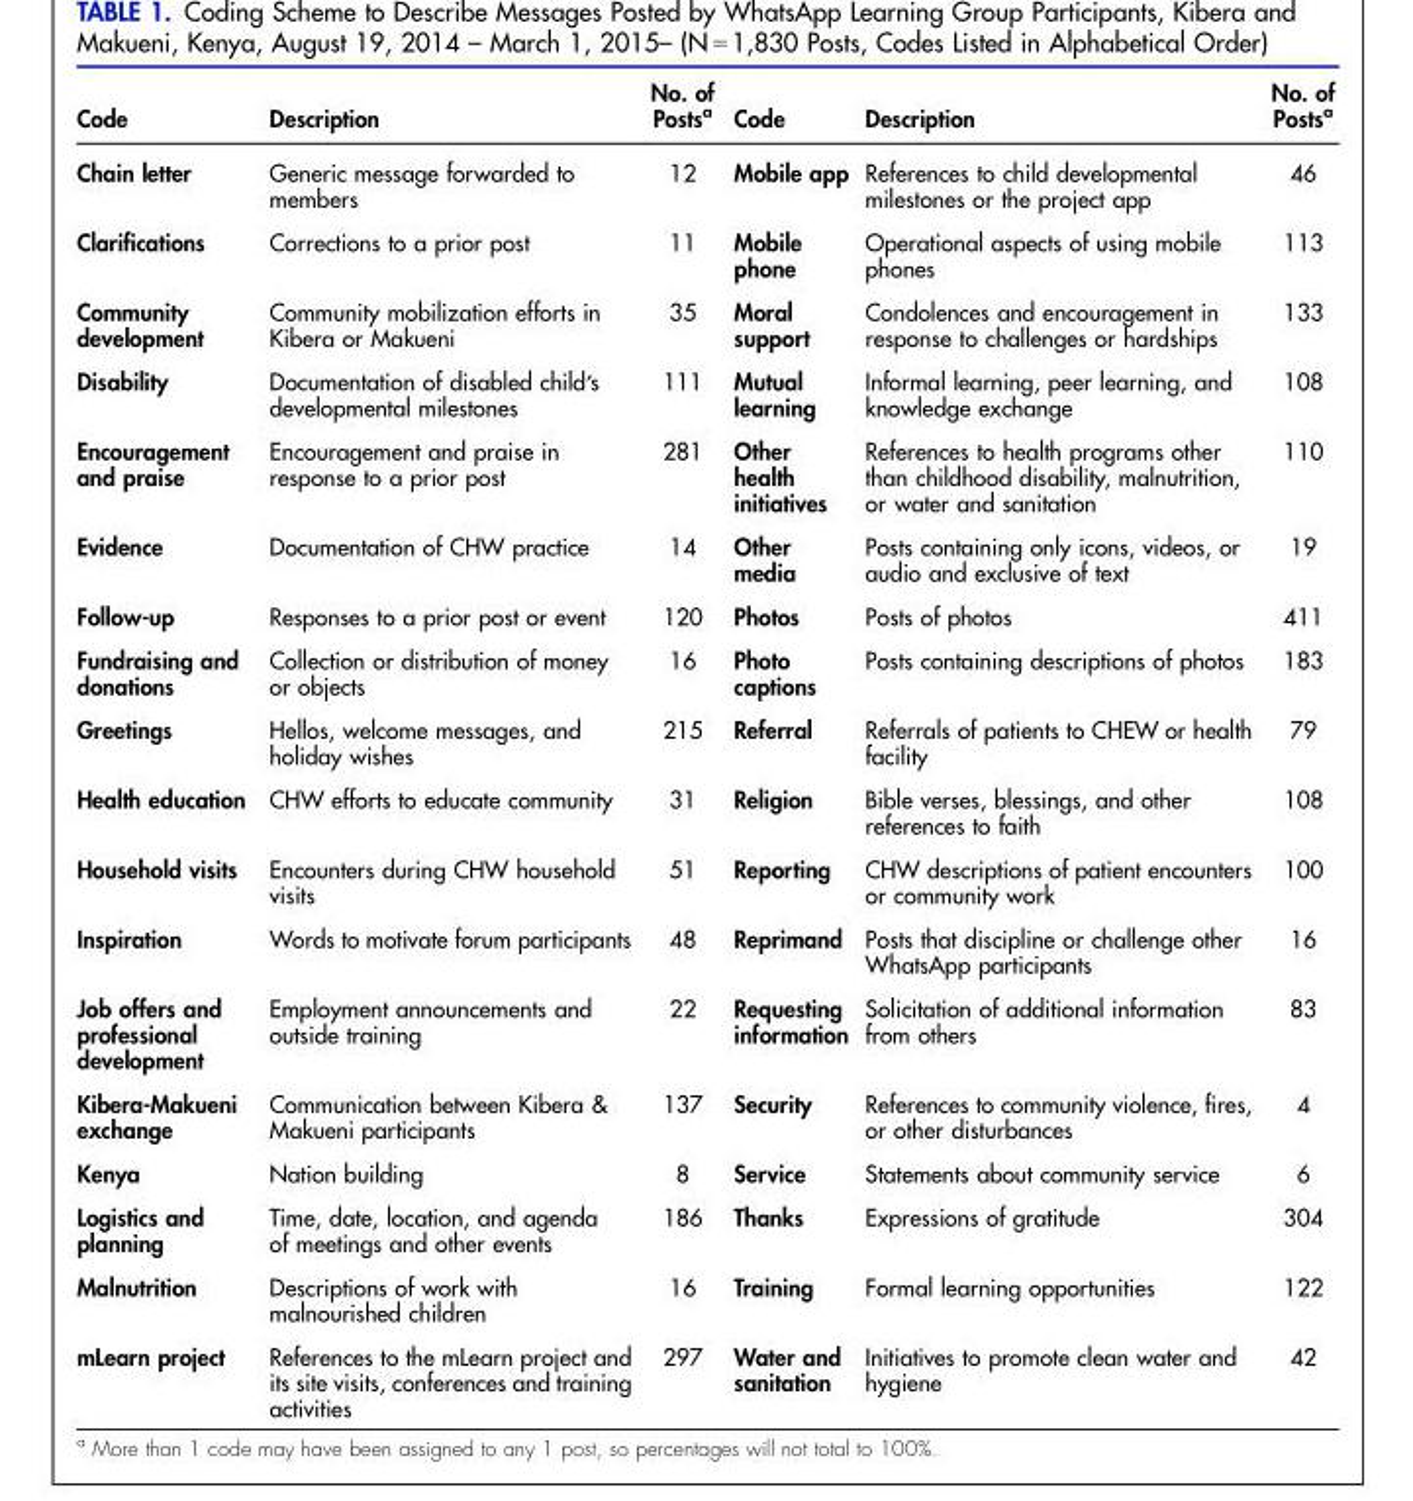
<table><thead><tr><td>Code</td><td>Description</td><td>No. of Posts<sup>a</sup></td><td>Code</td><td>Description</td><td>No. of Posts<sup>a</sup></td></tr></thead><tbody><tr><td>Chain letter</td><td>Generic message forwarded to members</td><td>12</td><td>Mobile app</td><td>References to child developmental milestones or the project app</td><td>46</td></tr><tr><td>Clarifications</td><td>Corrections to a prior post</td><td>11</td><td>Mobile phone</td><td>Operational aspects of using mobile phones</td><td>113</td></tr><tr><td>Community development</td><td>Community mobilization efforts in Kibera or Makueni</td><td>35</td><td>Moral support</td><td>Condolences and encouragement in response to challenges or hardships</td><td>133</td></tr><tr><td>Disability</td><td>Documentation of disabled child’s developmental milestones</td><td>111</td><td>Mutual learning</td><td>Informal learning, peer learning, and knowledge exchange</td><td>108</td></tr><tr><td>Encouragement and praise</td><td>Encouragement and praise in response to a prior post</td><td>281</td><td>Other health initiatives</td><td>References to health programs other than childhood disability, malnutrition, or water and sanitation</td><td>110</td></tr><tr><td>Evidence</td><td>Documentation of CHW practice</td><td>14</td><td>Other media</td><td>Posts containing only icons, videos, or audio and exclusive of text</td><td>19</td></tr><tr><td>Follow-up</td><td>Responses to a prior post or event</td><td>120</td><td>Photos</td><td>Posts of photos</td><td>411</td></tr><tr><td>Fundraising and donations</td><td>Collection or distribution of money or objects</td><td>16</td><td>Photo captions</td><td>Posts containing descriptions of photos</td><td>183</td></tr><tr><td>Greetings</td><td>Hellos, welcome messages, and holiday wishes</td><td>215</td><td>Referral</td><td>Referrals of patients to CHEW or health facility</td><td>79</td></tr><tr><td>Health education</td><td>CHW efforts to educate community</td><td>31</td><td>Religion</td><td>Bible verses, blessings, and other references to faith</td><td>108</td></tr><tr><td>Household visits</td><td>Encounters during CHW household visits</td><td>51</td><td>Reporting</td><td>CHW descriptions of patient encounters or community work</td><td>100</td></tr><tr><td>Inspiration</td><td>Words to motivate forum participants</td><td>48</td><td>Reprimand</td><td>Posts that discipline or challenge other WhatsApp participants</td><td>16</td></tr><tr><td>Job offers and professional development</td><td>Employment announcements and outside training</td><td>22</td><td>Requesting information</td><td>Solicitation of additional information from others</td><td>83</td></tr><tr><td>Kibera-Makueni exchange</td><td>Communication between Kibera &amp; Makueni participants</td><td>137</td><td>Security</td><td>References to community violence, fires, or other disturbances</td><td>4</td></tr><tr><td>Kenya</td><td>Nation building</td><td>8</td><td>Service</td><td>Statements about community service</td><td>6</td></tr><tr><td>Logistics and planning</td><td>Time, date, location, and agenda of meetings and other events</td><td>186</td><td>Thanks</td><td>Expressions of gratitude</td><td>304</td></tr><tr><td>Malnutrition</td><td>Descriptions of work with malnourished children</td><td>16</td><td>Training</td><td>Formal learning opportunities</td><td>122</td></tr><tr><td>mLearn project</td><td>References to the mLearn project and its site visits, conferences and training activities</td><td>297</td><td>Water and sanitation</td><td>Initiatives to promote clean water and hygiene</td><td>42</td></tr></tbody></table>